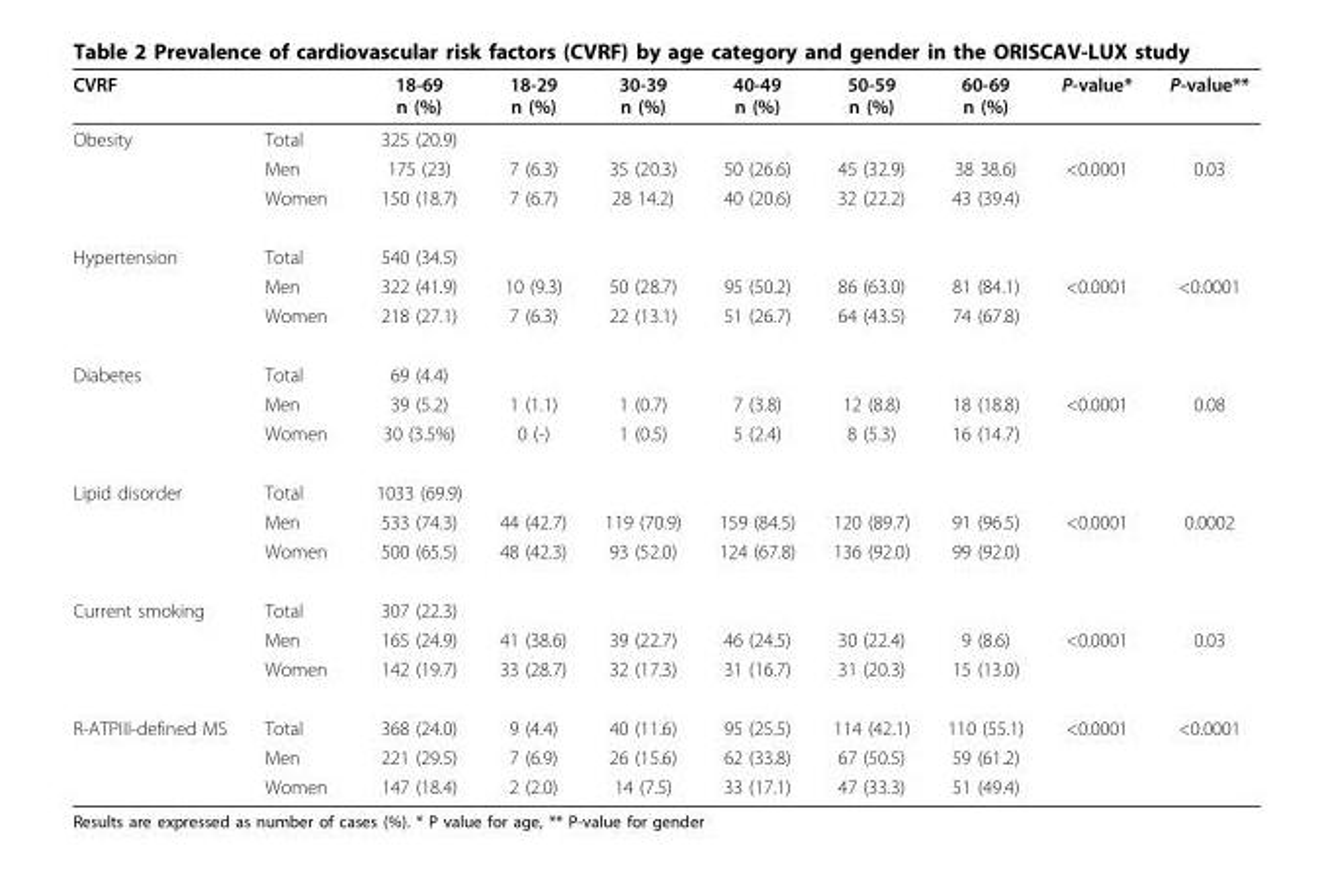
<table><thead><tr><td>CVRF</td><td></td><td>18-69 n (%)</td><td>18-29 n (%)</td><td>30-39 n (%)</td><td>40-49 n (%)</td><td>50-59 n (%)</td><td>60-69 n (%)</td><td>P-value*</td><td>P-value**</td></tr></thead><tbody><tr><td rowspan="3">Obesity</td><td>Total</td><td>325 (20.9)</td><td></td><td></td><td></td><td></td><td></td><td></td><td></td></tr><tr><td>Men</td><td>175 (23)</td><td>7 (6.3)</td><td>35 (20.3)</td><td>50 (26.6)</td><td>45 (32.9)</td><td>38 38.6)</td><td>&lt;0.0001</td><td>0.03</td></tr><tr><td>Women</td><td>150 (18.7)</td><td>7 (6.7)</td><td>28 14.2)</td><td>40 (20.6)</td><td>32 (22.2)</td><td>43 (39.4)</td><td></td><td></td></tr><tr><td rowspan="3">Hypertension</td><td>Total</td><td>540 (34.5)</td><td></td><td></td><td></td><td></td><td></td><td></td><td></td></tr><tr><td>Men</td><td>322 (41.9)</td><td>10 (9.3)</td><td>50 (28.7)</td><td>95 (50.2)</td><td>86 (63.0)</td><td>81 (84.1)</td><td>&lt;0.0001</td><td>&lt;0.0001</td></tr><tr><td>Women</td><td>218 (27.1)</td><td>7 (6.3)</td><td>22 (13.1)</td><td>51 (26.7)</td><td>64 (43.5)</td><td>74 (67.8)</td><td></td><td></td></tr><tr><td rowspan="3">Diabetes</td><td>Total</td><td>69 (4.4)</td><td></td><td></td><td></td><td></td><td></td><td></td><td></td></tr><tr><td>Men</td><td>39 (5.2)</td><td>1 (1.1)</td><td>1 (0.7)</td><td>7 (3.8)</td><td>12 (8.8)</td><td>18 (18.8)</td><td>&lt;0.0001</td><td>0.08</td></tr><tr><td>Women</td><td>30 (3.5%)</td><td>0 (-)</td><td>1 (0.5)</td><td>5 (2.4)</td><td>8 (5.3)</td><td>16 (14.7)</td><td></td><td></td></tr><tr><td rowspan="3">Lipid disorder</td><td>Total</td><td>1033 (69.9)</td><td></td><td></td><td></td><td></td><td></td><td></td><td></td></tr><tr><td>Men</td><td>533 (74.3)</td><td>44 (42.7)</td><td>119 (70.9)</td><td>159 (84.5)</td><td>120 (89.7)</td><td>91 (96.5)</td><td>&lt;0.0001</td><td>0.0002</td></tr><tr><td>Women</td><td>500 (65.5)</td><td>48 (42.3)</td><td>93 (52.0)</td><td>124 (67.8)</td><td>136 (92.0)</td><td>99 (92.0)</td><td></td><td></td></tr><tr><td rowspan="3">Current smoking</td><td>Total</td><td>307 (22.3)</td><td></td><td></td><td></td><td></td><td></td><td></td><td></td></tr><tr><td>Men</td><td>165 (24.9)</td><td>41 (38.6)</td><td>39 (22.7)</td><td>46 (24.5)</td><td>30 (22.4)</td><td>9 (8.6)</td><td>&lt;0.0001</td><td>0.03</td></tr><tr><td>Women</td><td>142 (19.7)</td><td>33 (28.7)</td><td>32 (17.3)</td><td>31 (16.7)</td><td>31 (20.3)</td><td>15 (13.0)</td><td></td><td></td></tr><tr><td rowspan="3">R-ATPIII-defined MS</td><td>Total</td><td>368 (24.0)</td><td>9 (4.4)</td><td>40 (11.6)</td><td>95 (25.5)</td><td>114 (42.1)</td><td>110 (55.1)</td><td>&lt;0.0001</td><td>&lt;0.0001</td></tr><tr><td>Men</td><td>221 (29.5)</td><td>7 (6.9)</td><td>26 (15.6)</td><td>62 (33.8)</td><td>67 (50.5)</td><td>59 (61.2)</td><td></td><td></td></tr><tr><td>Women</td><td>147 (18.4)</td><td>2 (2.0)</td><td>14 (7.5)</td><td>33 (17.1)</td><td>47 (33.3)</td><td>51 (49.4)</td><td></td><td></td></tr></tbody></table>